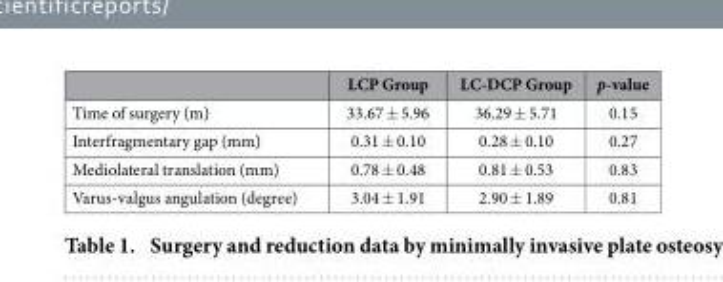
<table><thead><tr><td></td><td>LCP Group</td><td>LC-DCP Group</td><td>p-value</td></tr></thead><tbody><tr><td>Time of surgery (m)</td><td>33.67 ± 5.96</td><td>36.29 ± 5.71</td><td>0.15</td></tr><tr><td>Interfragmentary gap (mm)</td><td>0.31 ± 0.10</td><td>0.28 ± 0.10</td><td>0.27</td></tr><tr><td>Mediolateral translation (mm)</td><td>0.78 ± 0.48</td><td>0.81 ± 0.53</td><td>0.83</td></tr><tr><td>Varus-valgus angulation (degree)</td><td>3.04 ± 1.91</td><td>2.90 ± 1.89</td><td>0.81</td></tr></tbody></table>